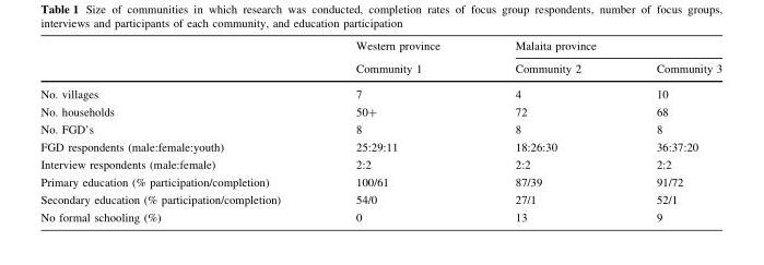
<table><thead><tr><td rowspan="2"></td><td rowspan="2">Western province Community 1</td><td colspan="2">Malaita province</td></tr><tr><td>Community 2</td><td>Community 3</td></tr></thead><tbody><tr><td>No. villages</td><td>7</td><td>4</td><td>10</td></tr><tr><td>No. households</td><td>50+</td><td>72</td><td>68</td></tr><tr><td>No. FGD’s</td><td>8</td><td>8</td><td>8</td></tr><tr><td>FGD respondents (male:female:youth)</td><td>25:29:11</td><td>18:26:30</td><td>36:37:20</td></tr><tr><td>Interview respondents (male:female)</td><td>2:2</td><td>2:2</td><td>2:2</td></tr><tr><td>Primary education (% participation/completion)</td><td>100/61</td><td>87/39</td><td>91/72</td></tr><tr><td>Secondary education (% participation/completion)</td><td>54/0</td><td>27/1</td><td>52/1</td></tr><tr><td>No formal schooling (%)</td><td>0</td><td>13</td><td>9</td></tr></tbody></table>